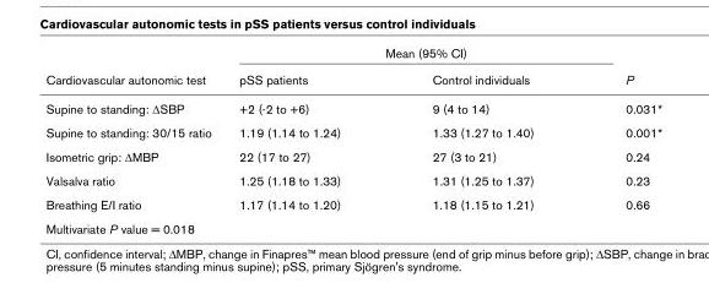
<table><thead><tr><td rowspan="2">Cardiovascular autonomic test</td><td colspan="2">Mean (95% CI)</td><td rowspan="2">P</td></tr><tr><td>pSS patients</td><td>Control individuals</td></tr></thead><tbody><tr><td>Supine to standing: ΔSBP</td><td>+2 (-2 to +6)</td><td>9 (4 to 14)</td><td>0.031*</td></tr><tr><td>Supine to standing: 30/15 ratio</td><td>1.19 (1.14 to 1.24)</td><td>1.33 (1.27 to 1.40)</td><td>0.001*</td></tr><tr><td>Isometric grip: ΔMBP</td><td>22 (17 to 27)</td><td>27 (3 to 21)</td><td>0.24</td></tr><tr><td>Valsalva ratio</td><td>1.25 (1.18 to 1.33)</td><td>1.31 (1.25 to 1.37)</td><td>0.23</td></tr><tr><td>Breathing E/I ratio</td><td>1.17 (1.14 to 1.20)</td><td>1.18 (1.15 to 1.21)</td><td>0.66</td></tr><tr><td>Multivariate P value = 0.018</td><td></td><td></td><td></td></tr></tbody></table>